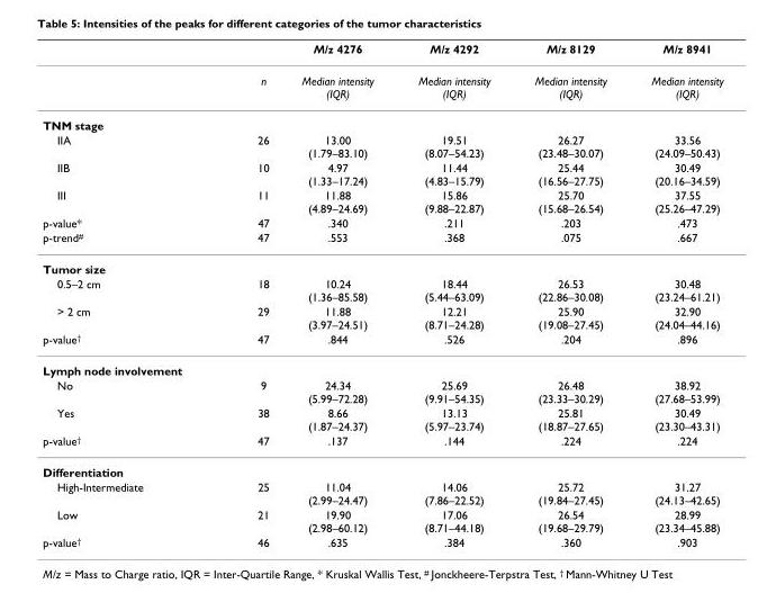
<table><thead><tr><td></td><td></td><td>M/z 4276</td><td>M/z 4292</td><td>M/z 8129</td><td>M/z 8941</td></tr></thead><tbody><tr><td></td><td>n</td><td>Median intensity (IQR)</td><td>Median intensity (IQR)</td><td>Median intensity (IQR)</td><td>Median intensity (IQR)</td></tr><tr><td colspan="6">TNM stage</td></tr><tr><td>IIA</td><td>26</td><td>13.00 (1.79–83.10)</td><td>19.51 (8.07–54.23)</td><td>26.27 (23.48–30.07)</td><td>33.56 (24.09–50.43)</td></tr><tr><td>IIB</td><td>10</td><td>4.97 (1.33–17.24)</td><td>11.44 (4.83–15.79)</td><td>25.44 (16.56–27.75)</td><td>30.49 (20.16–34.59)</td></tr><tr><td>III</td><td>11</td><td>11.88 (4.89–24.69)</td><td>15.86 (9.88–22.87)</td><td>25.70 (15.68–26.54)</td><td>37.55 (25.26–47.29)</td></tr><tr><td>p-value*</td><td>47</td><td>.340</td><td>.211</td><td>.203</td><td>.473</td></tr><tr><td>p-trend<sup>#</sup></td><td>47</td><td>.553</td><td>.368</td><td>.075</td><td>.667</td></tr><tr><td colspan="6">Tumor size</td></tr><tr><td>0.5–2 cm</td><td>18</td><td>10.24 (1.36–85.58)</td><td>18.44 (5.44–63.09)</td><td>26.53 (22.86–30.08)</td><td>30.48 (23.24–61.21)</td></tr><tr><td>&gt; 2 cm</td><td>29</td><td>11.88 (3.97–24.51)</td><td>12.21 (8.71–24.28)</td><td>25.90 (19.08–27.45)</td><td>32.90 (24.04–44.16)</td></tr><tr><td>p-value<sup>†</sup></td><td>47</td><td>.844</td><td>.526</td><td>.204</td><td>.896</td></tr><tr><td colspan="6">Lymph node involvement</td></tr><tr><td>No</td><td>9</td><td>24.34 (5.99–72.28)</td><td>25.69 (9.91–54.35)</td><td>26.48 (23.33–30.29)</td><td>38.92 (27.68–53.99)</td></tr><tr><td>Yes</td><td>38</td><td>8.66 (1.87–24.37)</td><td>13.13 (5.97–23.74)</td><td>25.81 (18.87–27.65)</td><td>30.49 (23.30–43.31)</td></tr><tr><td>p-value<sup>†</sup></td><td>47</td><td>.137</td><td>.144</td><td>.224</td><td>.224</td></tr><tr><td colspan="6">Differentiation</td></tr><tr><td>High-Intermediate</td><td>25</td><td>11.04 (2.99–24.47)</td><td>14.06 (7.86–22.52)</td><td>25.72 (19.84–27.45)</td><td>31.27 (24.13–42.65)</td></tr><tr><td>Low</td><td>21</td><td>19.90 (2.98–60.12)</td><td>17.06 (8.71–44.18)</td><td>26.54 (19.68–29.79)</td><td>28.99 (23.34–45.88)</td></tr><tr><td>p-value<sup>†</sup></td><td>46</td><td>.635</td><td>.384</td><td>.360</td><td>.903</td></tr></tbody></table>